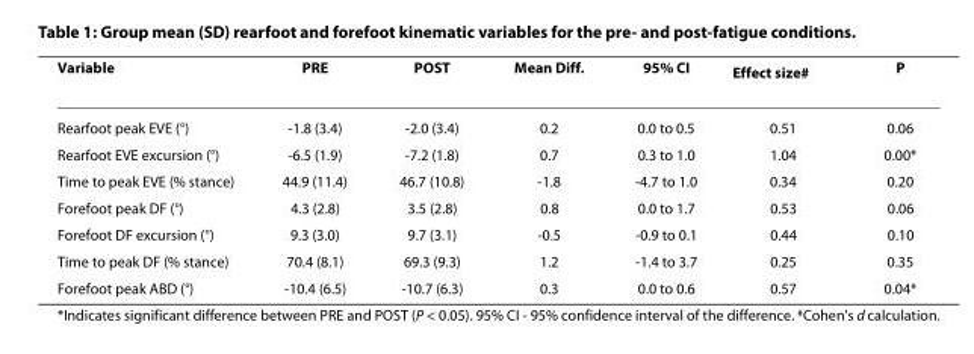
<table><thead><tr><td>Variable</td><td>PRE</td><td>POST</td><td>Mean Diff.</td><td>95% CI</td><td>Effect size<sup>#</sup></td><td>P</td></tr></thead><tbody><tr><td>Rearfoot peak EVE (°)</td><td>-1.8 (3.4)</td><td>-2.0 (3.4)</td><td>0.2</td><td>0.0 to 0.5</td><td>0.51</td><td>0.06</td></tr><tr><td>Rearfoot EVE excursion (°)</td><td>-6.5 (1.9)</td><td>-7.2 (1.8)</td><td>0.7</td><td>0.3 to 1.0</td><td>1.04</td><td>0.00*</td></tr><tr><td>Time to peak EVE (% stance)</td><td>44.9 (11.4)</td><td>46.7 (10.8)</td><td>-1.8</td><td>-4.7 to 1.0</td><td>0.34</td><td>0.20</td></tr><tr><td>Forefoot peak DF (°)</td><td>4.3 (2.8)</td><td>3.5 (2.8)</td><td>0.8</td><td>0.0 to 1.7</td><td>0.53</td><td>0.06</td></tr><tr><td>Forefoot DF excursion (°)</td><td>9.3 (3.0)</td><td>9.7 (3.1)</td><td>-0.5</td><td>-0.9 to 0.1</td><td>0.44</td><td>0.10</td></tr><tr><td>Time to peak DF (% stance)</td><td>70.4 (8.1)</td><td>69.3 (9.3)</td><td>1.2</td><td>-1.4 to 3.7</td><td>0.25</td><td>0.35</td></tr><tr><td>Forefoot peak ABD (°)</td><td>-10.4 (6.5)</td><td>-10.7 (6.3)</td><td>0.3</td><td>0.0 to 0.6</td><td>0.57</td><td>0.04*</td></tr></tbody></table>